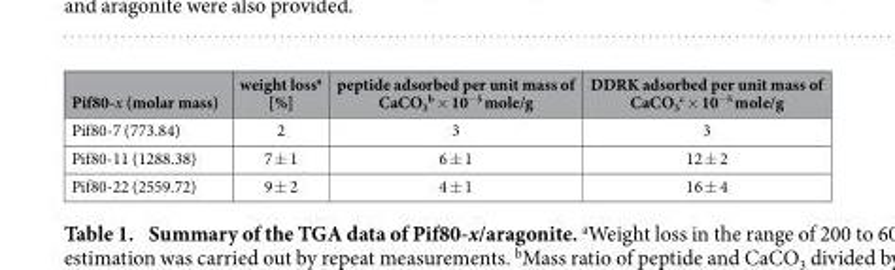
<table><thead><tr><td>Pif80-x (molar mass)</td><td>weight loss<sup>a</sup> [%]</td><td>peptide adsorbed per unit mass of CaCO<sub>3</sub> <sup>b</sup> × 10<sup>−5</sup> mole/g</td><td>DDRK adsorbed per unit mass of CaCO<sub>3</sub> <sup>c</sup> × 10<sup>−5</sup> mole/g</td></tr></thead><tbody><tr><td>Pif80-7 (773.84)</td><td>2</td><td>3</td><td>3</td></tr><tr><td>Pif80-11 (1288.38)</td><td>7 ± 1</td><td>6 ± 1</td><td>12 ± 2</td></tr><tr><td>Pif80-22 (2559.72)</td><td>9 ± 2</td><td>4 ± 1</td><td>16 ± 4</td></tr></tbody></table>